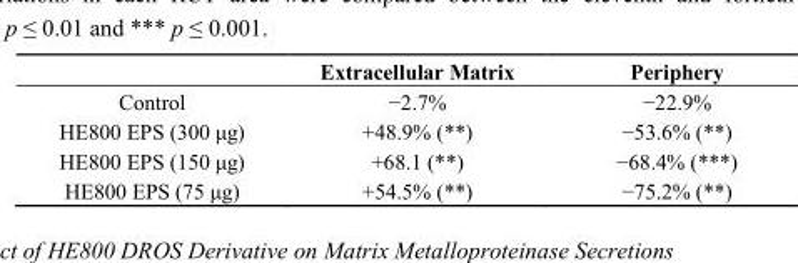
<table><thead><tr><td></td><td>Extracellular Matrix</td><td>Periphery</td></tr></thead><tbody><tr><td>Control</td><td>−2.7%</td><td>−22.9%</td></tr><tr><td>HE800 EPS (300 μg)</td><td>+48.9% (**)</td><td>−53.6% (**)</td></tr><tr><td>HE800 EPS (150 μg)</td><td>+68.1 (**)</td><td>−68.4% (***)</td></tr><tr><td>HE800 EPS (75 μg)</td><td>+54.5% (**)</td><td>−75.2% (**)</td></tr></tbody></table>